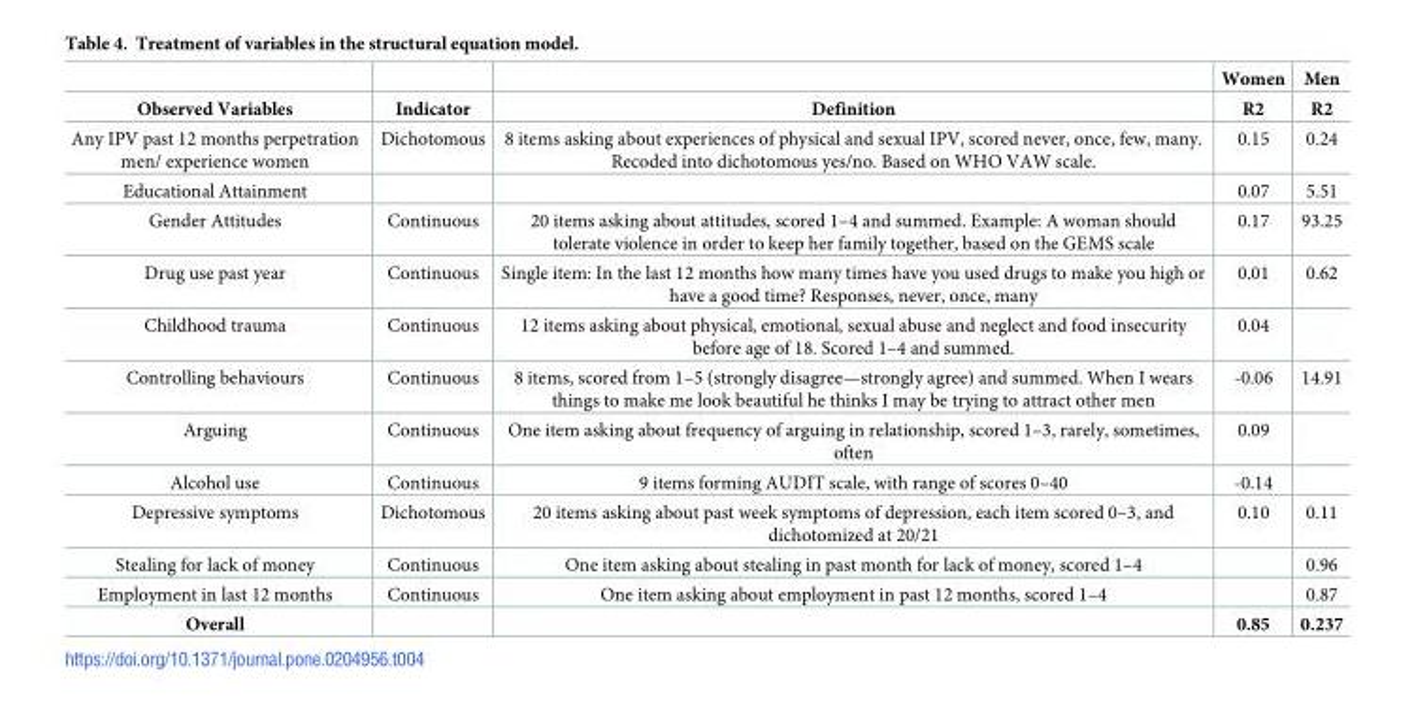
<table><thead><tr><td rowspan="2">Observed Variables</td><td rowspan="2">Indicator</td><td rowspan="2">Definition</td><td rowspan="2">Women R2</td><td rowspan="2">Men R2</td></tr><tr></tr></thead><tbody><tr><td>Any IPV past 12 months perpetration men/ experience women</td><td>Dichotomous</td><td>8 items asking about experiences of physical and sexual IPV, scored never, once, few, many. Recoded into dichotomous yes/no. Based on WHO VAW scale.</td><td>0.15</td><td>0.24</td></tr><tr><td>Educational Attainment</td><td></td><td></td><td>0.07</td><td>5.51</td></tr><tr><td>Gender Attitudes</td><td>Continuous</td><td>20 items asking about attitudes, scored 1–4 and summed. Example: A woman should tolerate violence in order to keep her family together, based on the GEMS scale</td><td>0.17</td><td>93.25</td></tr><tr><td>Drug use past year</td><td>Continuous</td><td>Single item: In the last 12 months how many times have you used drugs to make you high or have a good time? Responses, never, once, many</td><td>0.01</td><td>0.62</td></tr><tr><td>Childhood trauma</td><td>Continuous</td><td>12 items asking about physical, emotional, sexual abuse and neglect and food insecurity before age of 18. Scored 1–4 and summed.</td><td>0.04</td><td></td></tr><tr><td>Controlling behaviours</td><td>Continuous</td><td>8 items, scored from 1–5 (strongly disagree—strongly agree) and summed. When I wears things to make me look beautiful he thinks I may be trying to attract other men</td><td>-0.06</td><td>14.91</td></tr><tr><td>Arguing</td><td>Continuous</td><td>One item asking about frequency of arguing in relationship, scored 1–3, rarely, sometimes, often</td><td>0.09</td><td></td></tr><tr><td>Alcohol use</td><td>Continuous</td><td>9 items forming AUDIT scale, with range of scores 0–40</td><td>-0.14</td><td></td></tr><tr><td>Depressive symptoms</td><td>Dichotomous</td><td>20 items asking about past week symptoms of depression, each item scored 0–3, and dichotomized at 20/21</td><td>0.10</td><td>0.11</td></tr><tr><td>Stealing for lack of money</td><td>Continuous</td><td>One item asking about stealing in past month for lack of money, scored 1–4</td><td></td><td>0.96</td></tr><tr><td>Employment in last 12 months</td><td>Continuous</td><td>One item asking about employment in past 12 months, scored 1–4</td><td></td><td>0.87</td></tr><tr><td>Overall</td><td></td><td></td><td>0.85</td><td>0.237</td></tr></tbody></table>